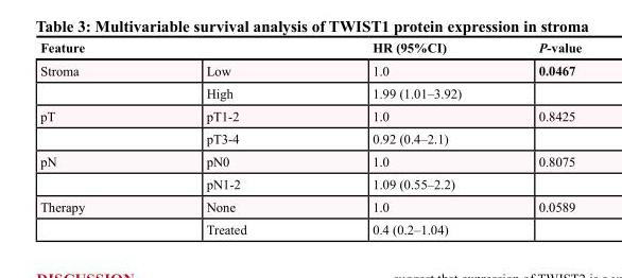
<table><thead><tr><td colspan="2">Feature</td><td rowspan="2">HR (95%CI) 1.0</td><td rowspan="2">P-value 0.0467</td></tr><tr><td>Stroma</td><td>Low</td></tr></thead><tbody><tr><td></td><td>High</td><td>1.99 (1.01–3.92)</td><td></td></tr><tr><td rowspan="2">pT</td><td>pT1-2</td><td>1.0</td><td>0.8425</td></tr><tr><td>pT3-4</td><td>0.92 (0.4–2.1)</td><td></td></tr><tr><td rowspan="2">pN</td><td>pN0</td><td>1.0</td><td>0.8075</td></tr><tr><td>pN1-2</td><td>1.09 (0.55–2.2)</td><td></td></tr><tr><td rowspan="2">Therapy</td><td>None</td><td>1.0</td><td>0.0589</td></tr><tr><td>Treated</td><td>0.4 (0.2–1.04)</td><td></td></tr></tbody></table>